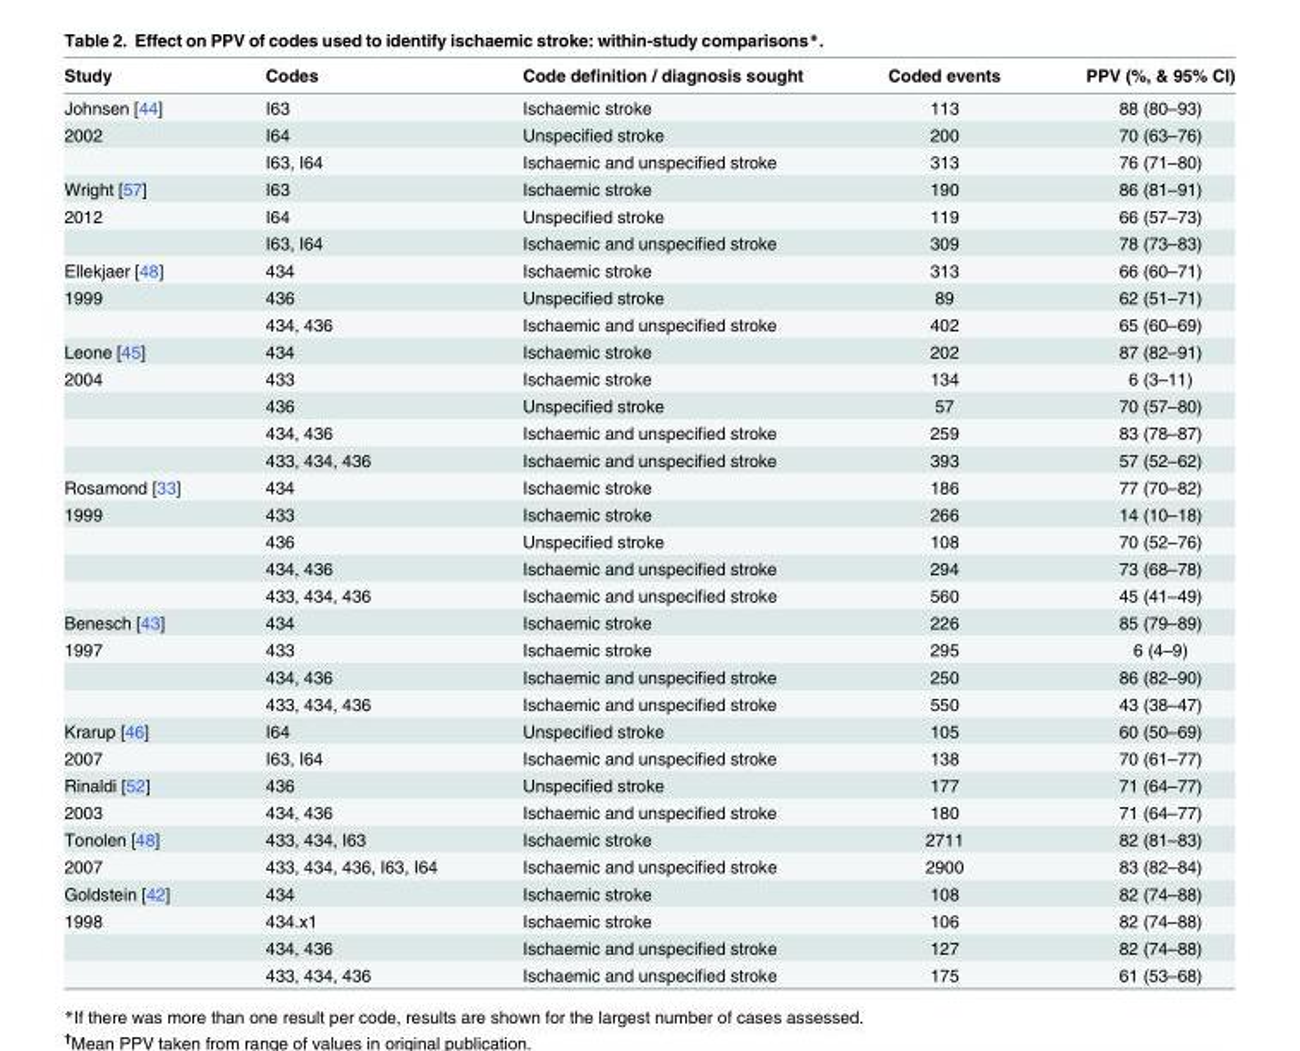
<table><thead><tr><td>Study</td><td>Codes</td><td>Code definition / diagnosis sought</td><td>Coded events</td><td>PPV (%, &amp; 95% CI)</td></tr></thead><tbody><tr><td>Johnsen [44]</td><td>I63</td><td>Ischaemic stroke</td><td>113</td><td>88 (80–93)</td></tr><tr><td rowspan="2">2002</td><td>I64</td><td>Unspecified stroke</td><td>200</td><td>70 (63–76)</td></tr><tr><td>I63, I64</td><td>Ischaemic and unspecified stroke</td><td>313</td><td>76 (71–80)</td></tr><tr><td>Wright [57]</td><td>I63</td><td>Ischaemic stroke</td><td>190</td><td>86 (81–91)</td></tr><tr><td rowspan="2">2012</td><td>I64</td><td>Unspecified stroke</td><td>119</td><td>66 (57–73)</td></tr><tr><td>I63, I64</td><td>Ischaemic and unspecified stroke</td><td>309</td><td>78 (73–83)</td></tr><tr><td>Ellekjaer [48]</td><td>434</td><td>Ischaemic stroke</td><td>313</td><td>66 (60–71)</td></tr><tr><td rowspan="2">1999</td><td>436</td><td>Unspecified stroke</td><td>89</td><td>62 (51–71)</td></tr><tr><td>434, 436</td><td>Ischaemic and unspecified stroke</td><td>402</td><td>65 (60–69)</td></tr><tr><td>Leone [45]</td><td>434</td><td>Ischaemic stroke</td><td>202</td><td>87 (82–91)</td></tr><tr><td rowspan="4">2004</td><td>433</td><td>Ischaemic stroke</td><td>134</td><td>6 (3–11)</td></tr><tr><td>436</td><td>Unspecified stroke</td><td>57</td><td>70 (57–80)</td></tr><tr><td>434, 436</td><td>Ischaemic and unspecified stroke</td><td>259</td><td>83 (78–87)</td></tr><tr><td>433, 434, 436</td><td>Ischaemic and unspecified stroke</td><td>393</td><td>57 (52–62)</td></tr><tr><td>Rosamond [33]</td><td>434</td><td>Ischaemic stroke</td><td>186</td><td>77 (70–82)</td></tr><tr><td rowspan="4">1999</td><td>433</td><td>Ischaemic stroke</td><td>266</td><td>14 (10–18)</td></tr><tr><td>436</td><td>Unspecified stroke</td><td>108</td><td>70 (52–76)</td></tr><tr><td>434, 436</td><td>Ischaemic and unspecified stroke</td><td>294</td><td>73 (68–78)</td></tr><tr><td>433, 434, 436</td><td>Ischaemic and unspecified stroke</td><td>560</td><td>45 (41–49)</td></tr><tr><td>Benesch [43]</td><td>434</td><td>Ischaemic stroke</td><td>226</td><td>85 (79–89)</td></tr><tr><td rowspan="3">1997</td><td>433</td><td>Ischaemic stroke</td><td>295</td><td>6 (4–9)</td></tr><tr><td>434, 436</td><td>Ischaemic and unspecified stroke</td><td>250</td><td>86 (82–90)</td></tr><tr><td>433, 434, 436</td><td>Ischaemic and unspecified stroke</td><td>550</td><td>43 (38–47)</td></tr><tr><td>Krarup [46]</td><td>I64</td><td>Unspecified stroke</td><td>105</td><td>60 (50–69)</td></tr><tr><td>2007</td><td>I63, I64</td><td>Ischaemic and unspecified stroke</td><td>138</td><td>70 (61–77)</td></tr><tr><td>Rinaldi [52]</td><td>436</td><td>Unspecified stroke</td><td>177</td><td>71 (64–77)</td></tr><tr><td>2003</td><td>434, 436</td><td>Ischaemic and unspecified stroke</td><td>180</td><td>71 (64–77)</td></tr><tr><td>Tonolen [48]</td><td>433, 434, I63</td><td>Ischaemic stroke</td><td>2711</td><td>82 (81–83)</td></tr><tr><td>2007</td><td>433, 434, 436, I63, I64</td><td>Ischaemic and unspecified stroke</td><td>2900</td><td>83 (82–84)</td></tr><tr><td>Goldstein [42]</td><td>434</td><td>Ischaemic stroke</td><td>108</td><td>82 (74–88)</td></tr><tr><td rowspan="3">1998</td><td>434.x1</td><td>Ischaemic stroke</td><td>106</td><td>82 (74–88)</td></tr><tr><td>434, 436</td><td>Ischaemic and unspecified stroke</td><td>127</td><td>82 (74–88)</td></tr><tr><td>433, 434, 436</td><td>Ischaemic and unspecified stroke</td><td>175</td><td>61 (53–68)</td></tr></tbody></table>